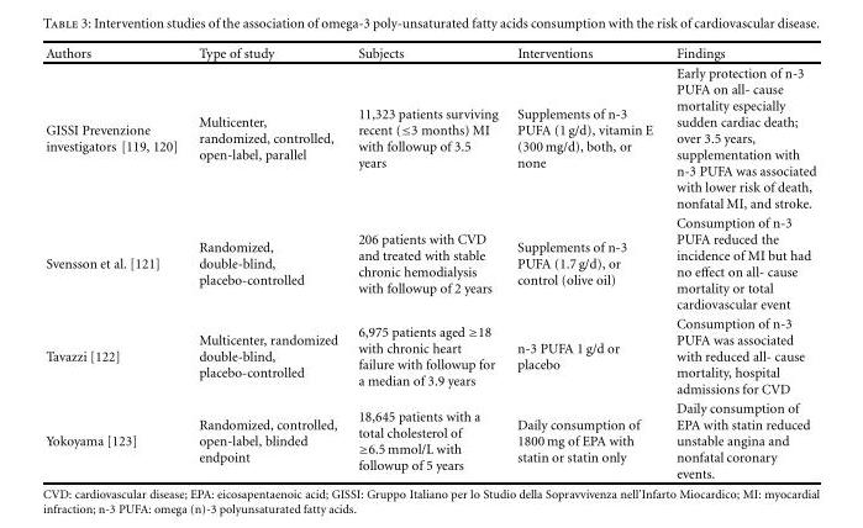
<table><thead><tr><td>Authors</td><td>Type of study</td><td>Subjects</td><td>Interventions</td><td>Findings</td></tr></thead><tbody><tr><td>GISSI Prevenzione investigators [119, 120]</td><td>Multicenter, randomized, controlled, open-label, parallel</td><td>11,323 patients surviving recent (≤3 months) MI with followup of 3.5 years</td><td>Supplements of n-3 PUFA (1 g/d), vitamin E (300 mg/d), both, or none</td><td>Early protection of n-3 PUFA on all- cause mortality especially sudden cardiac death; over 3.5 years, supplementation with n-3 PUFA was associated with lower risk of death, nonfatal MI, and stroke.</td></tr><tr><td>Svensson et al. [121]</td><td>Randomized, double-blind, placebo-controlled</td><td>206 patients with CVD and treated with stable chronic hemodialysis with followup of 2 years</td><td>Supplements of n-3 PUFA (1.7 g/d), or control (olive oil)</td><td>Consumption of n-3 PUFA reduced the incidence of MI but had no effect on all- cause mortality or total cardiovascular event</td></tr><tr><td>Tavazzi [122]</td><td>Multicenter, randomized double-blind, placebo-controlled</td><td>6,975 patients aged ≥18 with chronic heart failure with followup for a median of 3.9 years</td><td>n-3 PUFA 1 g/d or placebo</td><td>Consumption of n-3 PUFA was associated with reduced all- cause mortality, hospital admissions for CVD</td></tr><tr><td>Yokoyama [123]</td><td>Randomized, controlled, open-label, blinded endpoint</td><td>18,645 patients with a total cholesterol of ≥6.5 mmol/L with followup of 5 years</td><td>Daily consumption of 1800 mg of EPA with statin or statin only</td><td>Daily consumption of EPA with statin reduced unstable angina and nonfatal coronary events.</td></tr></tbody></table>